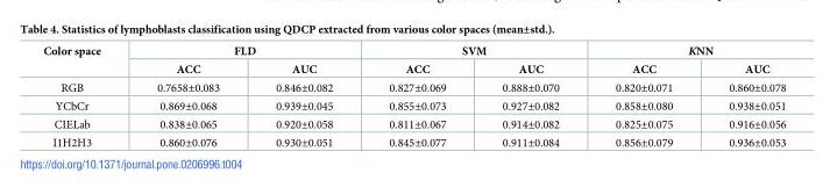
<table><thead><tr><td rowspan="2">Color space</td><td colspan="2">FLD</td><td colspan="2">SVM</td><td colspan="2">KNN</td></tr><tr><td>ACC</td><td>AUC</td><td>ACC</td><td>AUC</td><td>ACC</td><td>AUC</td></tr></thead><tbody><tr><td>RGB</td><td>0.7658±0.083</td><td>0.846±0.082</td><td>0.827±0.069</td><td>0.888±0.070</td><td>0.820±0.071</td><td>0.860±0.078</td></tr><tr><td>YCbCr</td><td>0.869±0.068</td><td>0.939±0.045</td><td>0.855±0.073</td><td>0.927±0.082</td><td>0.858±0.080</td><td>0.938±0.051</td></tr><tr><td>CIELab</td><td>0.838±0.065</td><td>0.920±0.058</td><td>0.811±0.067</td><td>0.914±0.082</td><td>0.825±0.075</td><td>0.916±0.056</td></tr><tr><td>I1H2H3</td><td>0.860±0.076</td><td>0.930±0.051</td><td>0.845±0.077</td><td>0.911±0.084</td><td>0.856±0.079</td><td>0.936±0.053</td></tr></tbody></table>